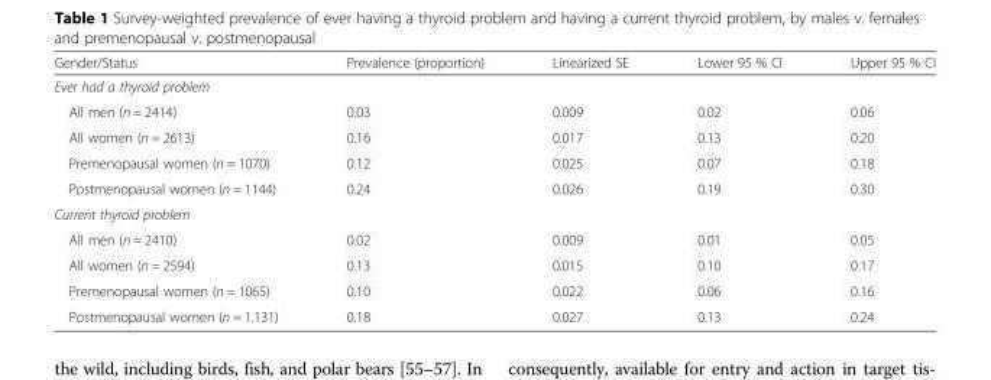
<table><thead><tr><td>Gender/Status</td><td>Prevalence (proportion)</td><td>Linearized SE</td><td>Lower 95 % CI</td><td>Upper 95 % CI</td></tr></thead><tbody><tr><td colspan="5">Ever had a thyroid problem</td></tr><tr><td>All men (n = 2414)</td><td>0.03</td><td>0.009</td><td>0.02</td><td>0.06</td></tr><tr><td>All women (n = 2613)</td><td>0.16</td><td>0.017</td><td>0.13</td><td>0.20</td></tr><tr><td>Premenopausal women (n = 1070)</td><td>0.12</td><td>0.025</td><td>0.07</td><td>0.18</td></tr><tr><td>Postmenopausal women (n = 1144)</td><td>0.24</td><td>0.026</td><td>0.19</td><td>0.30</td></tr><tr><td colspan="5">Current thyroid problem</td></tr><tr><td>All men (n = 2410)</td><td>0.02</td><td>0.009</td><td>0.01</td><td>0.05</td></tr><tr><td>All women (n = 2594)</td><td>0.13</td><td>0.015</td><td>0.10</td><td>0.17</td></tr><tr><td>Premenopausal women (n = 1065)</td><td>0.10</td><td>0.022</td><td>0.06</td><td>0.16</td></tr><tr><td>Postmenopausal women (n = 1.131)</td><td>0.18</td><td>0.027</td><td>0.13</td><td>0.24</td></tr></tbody></table>